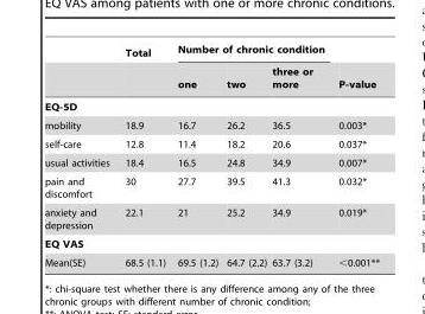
<table><thead><tr><td rowspan="2"></td><td rowspan="2">Total</td><td colspan="3">Number of chronic condition</td><td rowspan="2">P-value</td></tr><tr><td>one</td><td>two</td><td>three or more</td></tr></thead><tbody><tr><td colspan="6">EQ-5D</td></tr><tr><td>mobility</td><td>18.9</td><td>16.7</td><td>26.2</td><td>36.5</td><td>0.003*</td></tr><tr><td>self-care</td><td>12.8</td><td>11.4</td><td>18.2</td><td>20.6</td><td>0.037*</td></tr><tr><td>usual activities</td><td>18.4</td><td>16.5</td><td>24.8</td><td>34.9</td><td>0.007*</td></tr><tr><td>pain and discomfort</td><td>30</td><td>27.7</td><td>39.5</td><td>41.3</td><td>0.032*</td></tr><tr><td>anxiety and depression</td><td>22.1</td><td>21</td><td>25.2</td><td>34.9</td><td>0.019*</td></tr><tr><td colspan="6">EQ VAS</td></tr><tr><td>Mean(SE)</td><td>68.5 (1.1)</td><td>69.5 (1.2)</td><td>64.7 (2.2)</td><td>63.7 (3.2)</td><td>&lt;0.001**</td></tr></tbody></table>